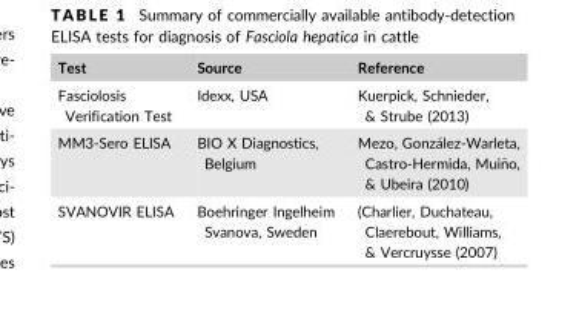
<table><thead><tr><td>Test</td><td>Source</td><td>Reference</td></tr></thead><tbody><tr><td>Fasciolosis Verification Test</td><td>Idexx, USA</td><td>Kuerpick, Schnieder, &amp; Strube (2013)</td></tr><tr><td>MM3-Sero ELISA</td><td>BIO X Diagnostics, Belgium</td><td>Mezo, Gonz�alez-Warleta, Castro-Hermida, Mui~no, &amp; Ubeira (2010)</td></tr><tr><td>SVANOVIR ELISA</td><td>Boehringer Ingelheim Svanova, Sweden</td><td>(Charlier, Duchateau, Claerebout, Williams, &amp; Vercruysse (2007)</td></tr></tbody></table>